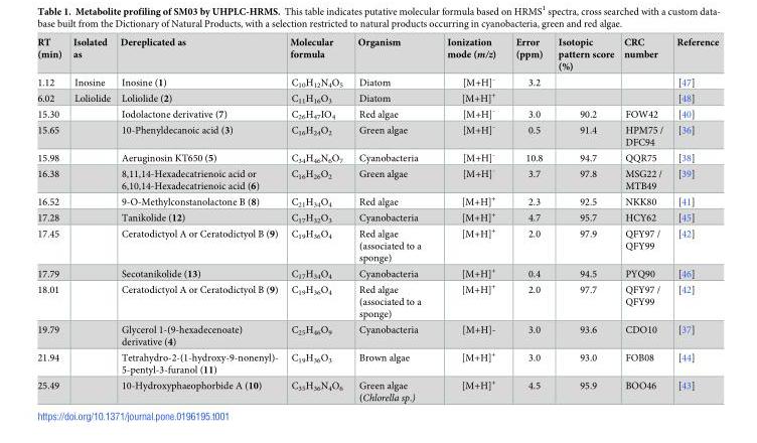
<table><thead><tr><td>RT (min)</td><td>Isolated as</td><td>Dereplicated as</td><td>Molecular formula</td><td>Organism</td><td>Ionization mode (m/z)</td><td>Error (ppm)</td><td>Isotopic pattern score (%)</td><td>CRC number</td><td>Reference</td></tr></thead><tbody><tr><td>1.12</td><td>Inosine</td><td>Inosine (1)</td><td>C<sub>10</sub>H<sub>12</sub>N<sub>4</sub>O<sub>5</sub></td><td>Diatom</td><td>[M+H]<sup>-</sup></td><td>3.2</td><td></td><td></td><td>[47]</td></tr><tr><td>6.02</td><td>Loliolide</td><td>Loliolide (2)</td><td>C<sub>11</sub>H<sub>16</sub>O<sub>3</sub></td><td>Diatom</td><td>[M+H]<sup>+</sup></td><td></td><td></td><td></td><td>[48]</td></tr><tr><td>15.30</td><td></td><td>Iodolactone derivative (7)</td><td>C<sub>26</sub>H<sub>47</sub>IO<sub>4</sub></td><td>Red algae</td><td>[M+H]<sup>-</sup></td><td>3.0</td><td>90.2</td><td>FOW42</td><td>[40]</td></tr><tr><td>15.65</td><td></td><td>10-Phenyldecanoic acid (3)</td><td>C<sub>16</sub>H<sub>24</sub>O<sub>2</sub></td><td>Green algae</td><td>[M+H]<sup>-</sup></td><td>0.5</td><td>91.4</td><td>HPM75 / DFC94</td><td>[36]</td></tr><tr><td>15.98</td><td></td><td>Aeruginosin KT650 (5)</td><td>C<sub>34</sub>H<sub>46</sub>N<sub>6</sub>O<sub>7</sub></td><td>Cyanobacteria</td><td>[M+H]<sup>-</sup></td><td>10.8</td><td>94.7</td><td>QQR75</td><td>[38]</td></tr><tr><td>16.38</td><td></td><td>8,11,14-Hexadecatrienoic acid or 6,10,14-Hexadecatrienoic acid (6)</td><td>C<sub>16</sub>H<sub>26</sub>O<sub>2</sub></td><td>Green algae</td><td>[M+H]<sup>-</sup></td><td>3.7</td><td>97.8</td><td>MSG22 / MTB49</td><td>[39]</td></tr><tr><td>16.52</td><td></td><td>9-O-Methylconstanolactone B (8)</td><td>C<sub>21</sub>H<sub>34</sub>O<sub>4</sub></td><td>Red algae</td><td>[M+H]<sup>+</sup></td><td>2.3</td><td>92.5</td><td>NKK80</td><td>[41]</td></tr><tr><td>17.28</td><td></td><td>Tanikolide (12)</td><td>C<sub>17</sub>H<sub>32</sub>O<sub>3</sub></td><td>Cyanobacteria</td><td>[M+H]<sup>+</sup></td><td>4.7</td><td>95.7</td><td>HCY62</td><td>[45]</td></tr><tr><td>17.45</td><td></td><td>Ceratodictyol A or Ceratodictyol B (9)</td><td>C<sub>19</sub>H<sub>36</sub>O<sub>4</sub></td><td>Red algae (associated to a sponge)</td><td>[M+H]<sup>+</sup></td><td>2.0</td><td>97.9</td><td>QFY97 / QFY99</td><td>[42]</td></tr><tr><td>17.79</td><td></td><td>Secotanikolide (13)</td><td>C<sub>17</sub>H<sub>34</sub>O<sub>4</sub></td><td>Cyanobacteria</td><td>[M+H]<sup>+</sup></td><td>0.4</td><td>94.5</td><td>PYQ90</td><td>[46]</td></tr><tr><td>18.01</td><td></td><td>Ceratodictyol A or Ceratodictyol B (9)</td><td>C<sub>19</sub>H<sub>36</sub>O<sub>4</sub></td><td>Red algae (associated to a sponge)</td><td>[M+H]<sup>+</sup></td><td>2.0</td><td>97.7</td><td>QFY97 / QFY99</td><td>[42]</td></tr><tr><td>19.79</td><td></td><td>Glycerol 1-(9-hexadecenoate) derivative (4)</td><td>C<sub>25</sub>H<sub>46</sub>O<sub>9</sub></td><td>Cyanobacteria</td><td>[M+H]-</td><td>3.0</td><td>93.6</td><td>CDO10</td><td>[37]</td></tr><tr><td>21.94</td><td></td><td>Tetrahydro-2-(1-hydroxy-9-nonenyl)- 5-pentyl-3-furanol (11)</td><td>C<sub>19</sub>H<sub>36</sub>O<sub>3</sub></td><td>Brown algae</td><td>[M+H]<sup>+</sup></td><td>3.0</td><td>93.0</td><td>FOB08</td><td>[44]</td></tr><tr><td>25.49</td><td></td><td>10-Hydroxyphaeophorbide A (10)</td><td>C<sub>35</sub>H<sub>36</sub>N<sub>4</sub>O<sub>6</sub></td><td>Green algae (Chlorella sp.)</td><td>[M+H]<sup>+</sup></td><td>4.5</td><td>95.9</td><td>BOO46</td><td>[43]</td></tr></tbody></table>